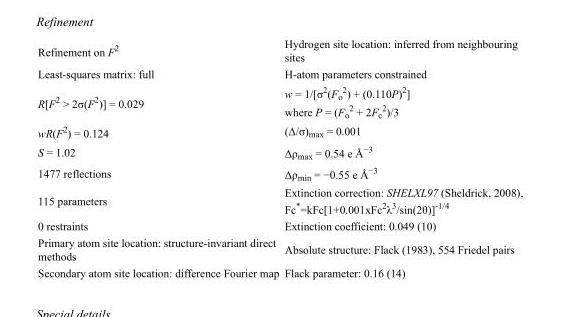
<table><tbody><tr><td>Refinement on F<sup>2</sup></td><td>Hydrogen site location: inferred from neighbouring sites</td></tr><tr><td>Least-squares matrix: full</td><td>H-atom parameters constrained</td></tr><tr><td>R[F<sup>2</sup> &gt; 2σ(F<sup>2</sup>)] = 0.029</td><td>w = 1/[σ<sup>2</sup>(F<sub>o</sub> <sup>2</sup>) + (0.110P)<sup>2</sup>] where P = (F<sub>o</sub> <sup>2</sup> + 2F<sub>c</sub> <sup>2</sup>)/3</td></tr><tr><td>wR(F<sup>2</sup>) = 0.124</td><td>(Δ/σ)<sub>max</sub> = 0.001</td></tr><tr><td>S = 1.02</td><td>Δρ<sub>max</sub> = 0.54 e Å<sup>−3</sup></td></tr><tr><td>1477 reflections</td><td>Δρ<sub>min</sub> = −0.55 e Å<sup>−3</sup></td></tr><tr><td>115 parameters</td><td>Extinction correction: SHELXL97 (Sheldrick, 2008), Fc*=kFc[1+0.001xFc<sup>2</sup>λ<sup>3</sup>/sin(2θ)]<sup>-1/4</sup></td></tr><tr><td>0 restraints</td><td>Extinction coefficient: 0.049 (10)</td></tr><tr><td>Primary atom site location: structure-invariant direct methods</td><td>Absolute structure: Flack (1983), 554 Friedel pairs</td></tr><tr><td>Secondary atom site location: difference Fourier map</td><td>Flack parameter: 0.16 (14)</td></tr></tbody></table>